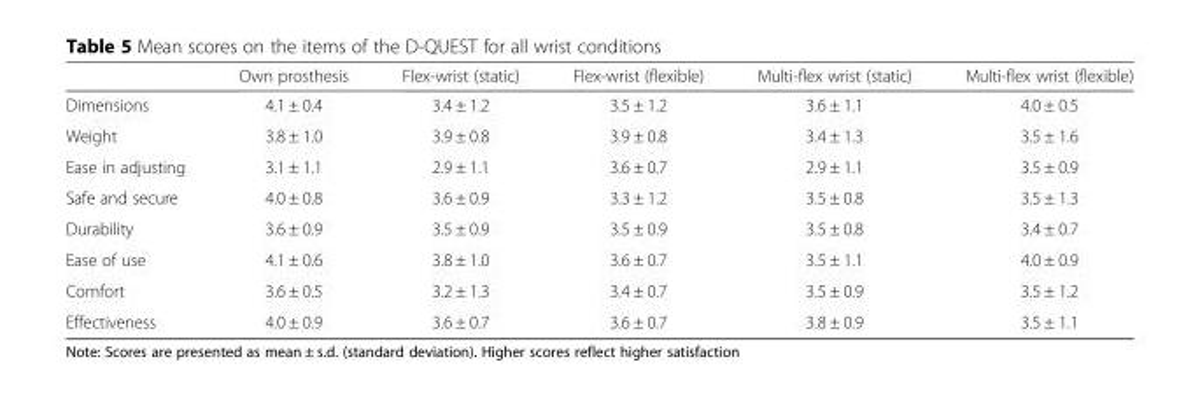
<table><thead><tr><td></td><td>Own prosthesis</td><td>Flex-wrist (static)</td><td>Flex-wrist (flexible)</td><td>Multi-flex wrist (static)</td><td>Multi-flex wrist (flexible)</td></tr></thead><tbody><tr><td>Dimensions</td><td>4.1 ± 0.4</td><td>3.4 ± 1.2</td><td>3.5 ± 1.2</td><td>3.6 ± 1.1</td><td>4.0 ± 0.5</td></tr><tr><td>Weight</td><td>3.8 ± 1.0</td><td>3.9 ± 0.8</td><td>3.9 ± 0.8</td><td>3.4 ± 1.3</td><td>3.5 ± 1.6</td></tr><tr><td>Ease in adjusting</td><td>3.1 ± 1.1</td><td>2.9 ± 1.1</td><td>3.6 ± 0.7</td><td>2.9 ± 1.1</td><td>3.5 ± 0.9</td></tr><tr><td>Safe and secure</td><td>4.0 ± 0.8</td><td>3.6 ± 0.9</td><td>3.3 ± 1.2</td><td>3.5 ± 0.8</td><td>3.5 ± 1.3</td></tr><tr><td>Durability</td><td>3.6 ± 0.9</td><td>3.5 ± 0.9</td><td>3.5 ± 0.9</td><td>3.5 ± 0.8</td><td>3.4 ± 0.7</td></tr><tr><td>Ease of use</td><td>4.1 ± 0.6</td><td>3.8 ± 1.0</td><td>3.6 ± 0.7</td><td>3.5 ± 1.1</td><td>4.0 ± 0.9</td></tr><tr><td>Comfort</td><td>3.6 ± 0.5</td><td>3.2 ± 1.3</td><td>3.4 ± 0.7</td><td>3.5 ± 0.9</td><td>3.5 ± 1.2</td></tr><tr><td>Effectiveness</td><td>4.0 ± 0.9</td><td>3.6 ± 0.7</td><td>3.6 ± 0.7</td><td>3.8 ± 0.9</td><td>3.5 ± 1.1</td></tr></tbody></table>